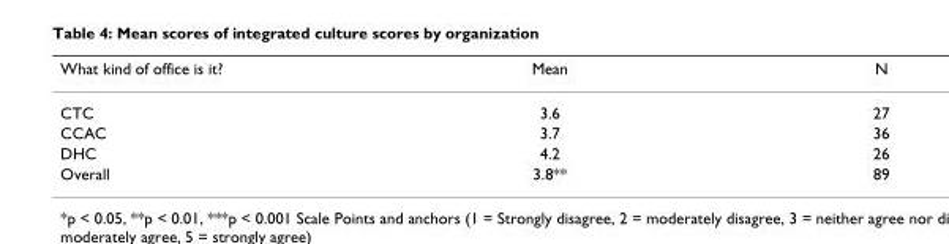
<table><thead><tr><td>What kind of office is it?</td><td>Mean</td><td>N</td></tr></thead><tbody><tr><td>CTC</td><td>3.6</td><td>27</td></tr><tr><td>CCAC</td><td>3.7</td><td>36</td></tr><tr><td>DHC</td><td>4.2</td><td>26</td></tr><tr><td>Overall</td><td>3.8**</td><td>89</td></tr></tbody></table>